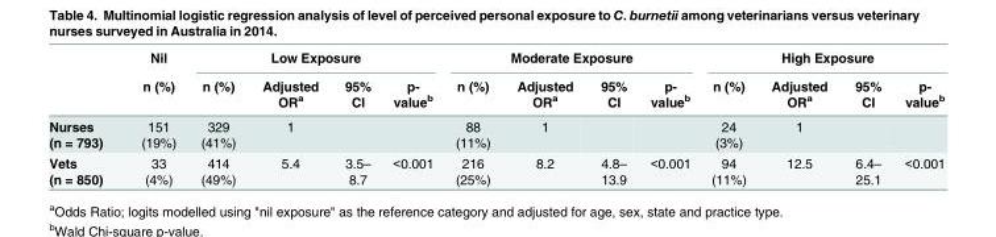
<table><thead><tr><td rowspan="2"></td><td rowspan="2">Nil n (%)</td><td colspan="4">Low Exposure</td><td colspan="4">Moderate Exposure</td><td colspan="4">High Exposure</td></tr><tr><td>n (%)</td><td>Adjusted OR<sup>a</sup></td><td>95% CI</td><td>p- value<sup>b</sup></td><td>n (%)</td><td>Adjusted OR<sup>a</sup></td><td>95% CI</td><td>p- value<sup>b</sup></td><td>n (%)</td><td>Adjusted OR<sup>a</sup></td><td>95% CI</td><td>p- value<sup>b</sup></td></tr></thead><tbody><tr><td>Nurses (n = 793)</td><td>151 (19%)</td><td>329 (41%)</td><td>1</td><td></td><td></td><td>88 (11%)</td><td>1</td><td></td><td></td><td>24 (3%)</td><td>1</td><td></td><td></td></tr><tr><td>Vets (n = 850)</td><td>33 (4%)</td><td>414 (49%)</td><td>5.4</td><td>3.5– 8.7</td><td>&lt;0.001</td><td>216 (25%)</td><td>8.2</td><td>4.8– 13.9</td><td>&lt;0.001</td><td>94 (11%)</td><td>12.5</td><td>6.4– 25.1</td><td>&lt;0.001</td></tr></tbody></table>